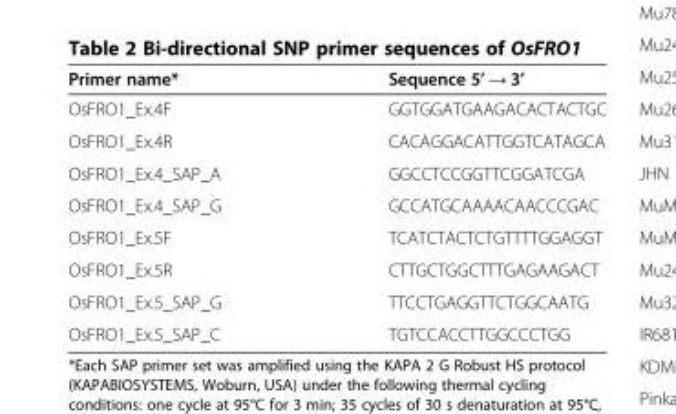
<table><thead><tr><td>Primer name*</td><td>Sequence 5’ → 3’</td></tr></thead><tbody><tr><td>OsFRO1_Ex.4F</td><td>GGTGGATGAAGACACTACTGC</td></tr><tr><td>OsFRO1_Ex.4R</td><td>CACAGGACATTGGTCATAGCA</td></tr><tr><td>OsFRO1_Ex.4_SAP_A</td><td>GGCCTCCGGTTCGGATCGA</td></tr><tr><td>OsFRO1_Ex.4_SAP_G</td><td>GCCATGCAAAACAACCCGAC</td></tr><tr><td>OsFRO1_Ex.5F</td><td>TCATCTACTCTGTTTTGGAGGT</td></tr><tr><td>OsFRO1_Ex.5R</td><td>CTTGCTGGCTTTGAGAAGACT</td></tr><tr><td>OsFRO1_Ex.5_SAP_G</td><td>TTCCTGAGGTTCTGGCAATG</td></tr><tr><td>OsFRO1_Ex.5_SAP_C</td><td>TGTCCACCTTGGCCCTGG</td></tr></tbody></table>